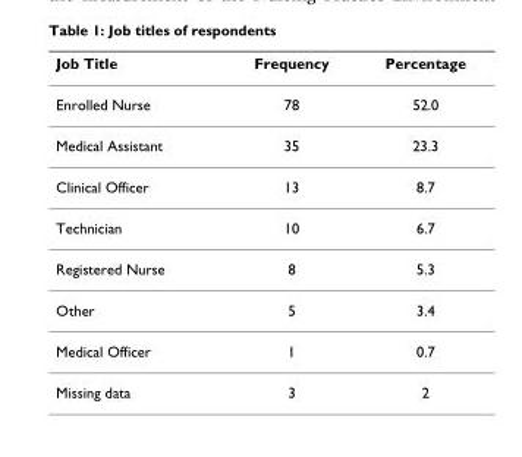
<table><thead><tr><td>Job Title</td><td>Frequency</td><td>Percentage</td></tr></thead><tbody><tr><td>Enrolled Nurse</td><td>78</td><td>52.0</td></tr><tr><td>Medical Assistant</td><td>35</td><td>23.3</td></tr><tr><td>Clinical Officer</td><td>13</td><td>8.7</td></tr><tr><td>Technician</td><td>10</td><td>6.7</td></tr><tr><td>Registered Nurse</td><td>8</td><td>5.3</td></tr><tr><td>Other</td><td>5</td><td>3.4</td></tr><tr><td>Medical Officer</td><td>1</td><td>0.7</td></tr><tr><td>Missing data</td><td>3</td><td>2</td></tr></tbody></table>